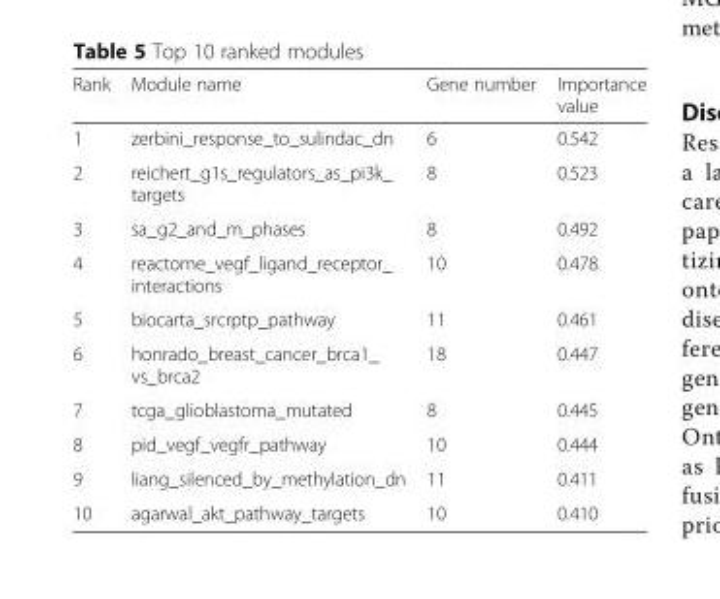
<table><thead><tr><td>Rank</td><td>Module name</td><td>Gene number</td><td>Importance value</td></tr></thead><tbody><tr><td>1</td><td>zerbini_response_to_sulindac_dn</td><td>6</td><td>0.542</td></tr><tr><td>2</td><td>reichert_g1s_regulators_as_pi3k_ targets</td><td>8</td><td>0.523</td></tr><tr><td>3</td><td>sa_g2_and_m_phases</td><td>8</td><td>0.492</td></tr><tr><td>4</td><td>reactome_vegf_ligand_receptor_ interactions</td><td>10</td><td>0.478</td></tr><tr><td>5</td><td>biocarta_srcrptp_pathway</td><td>11</td><td>0.461</td></tr><tr><td>6</td><td>honrado_breast_cancer_brca1_ vs_brca2</td><td>18</td><td>0.447</td></tr><tr><td>7</td><td>tcga_glioblastoma_mutated</td><td>8</td><td>0.445</td></tr><tr><td>8</td><td>pid_vegf_vegfr_pathway</td><td>10</td><td>0.444</td></tr><tr><td>9</td><td>liang_silenced_by_methylation_dn</td><td>11</td><td>0.411</td></tr><tr><td>10</td><td>agarwal_akt_pathway_targets</td><td>10</td><td>0.410</td></tr></tbody></table>